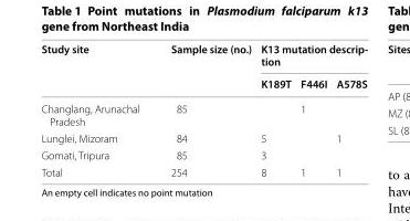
<table><thead><tr><td rowspan="2">Study site</td><td rowspan="2">Sample size (no.)</td><td colspan="3">K13 mutation descrip- tion</td></tr><tr><td>K189T</td><td>F446I</td><td>A578S</td></tr></thead><tbody><tr><td>Changlang, Arunachal Pradesh</td><td>85</td><td></td><td>1</td><td></td></tr><tr><td>Lunglei, Mizoram</td><td>84</td><td>5</td><td></td><td>1</td></tr><tr><td>Gomati, Tripura</td><td>85</td><td>3</td><td></td><td></td></tr><tr><td>Total</td><td>254</td><td>8</td><td>1</td><td>1</td></tr></tbody></table>